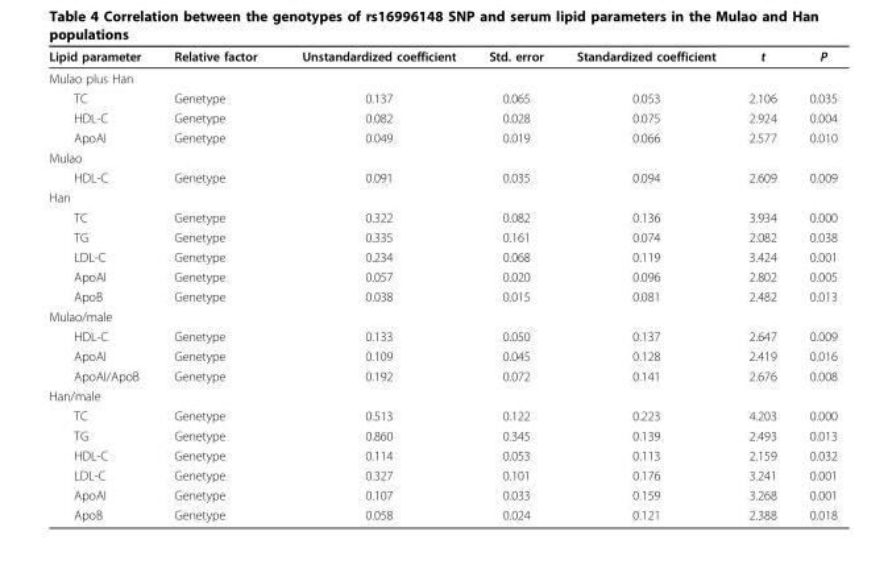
<table><thead><tr><td>Lipid parameter</td><td>Relative factor</td><td>Unstandardized coefficient</td><td>Std. error</td><td>Standardized coefficient</td><td>t</td><td>P</td></tr></thead><tbody><tr><td colspan="7">Mulao plus Han</td></tr><tr><td>TC</td><td>Genetype</td><td>0.137</td><td>0.065</td><td>0.053</td><td>2.106</td><td>0.035</td></tr><tr><td>HDL-C</td><td>Genetype</td><td>0.082</td><td>0.028</td><td>0.075</td><td>2.924</td><td>0.004</td></tr><tr><td>ApoAI</td><td>Genetype</td><td>0.049</td><td>0.019</td><td>0.066</td><td>2.577</td><td>0.010</td></tr><tr><td colspan="7">Mulao</td></tr><tr><td>HDL-C</td><td>Genetype</td><td>0.091</td><td>0.035</td><td>0.094</td><td>2.609</td><td>0.009</td></tr><tr><td colspan="7">Han</td></tr><tr><td>TC</td><td>Genetype</td><td>0.322</td><td>0.082</td><td>0.136</td><td>3.934</td><td>0.000</td></tr><tr><td>TG</td><td>Genetype</td><td>0.335</td><td>0.161</td><td>0.074</td><td>2.082</td><td>0.038</td></tr><tr><td>LDL-C</td><td>Genetype</td><td>0.234</td><td>0.068</td><td>0.119</td><td>3.424</td><td>0.001</td></tr><tr><td>ApoAI</td><td>Genetype</td><td>0.057</td><td>0.020</td><td>0.096</td><td>2.802</td><td>0.005</td></tr><tr><td>ApoB</td><td>Genetype</td><td>0.038</td><td>0.015</td><td>0.081</td><td>2.482</td><td>0.013</td></tr><tr><td colspan="7">Mulao/male</td></tr><tr><td>HDL-C</td><td>Genetype</td><td>0.133</td><td>0.050</td><td>0.137</td><td>2.647</td><td>0.009</td></tr><tr><td>ApoAI</td><td>Genetype</td><td>0.109</td><td>0.045</td><td>0.128</td><td>2.419</td><td>0.016</td></tr><tr><td>ApoAI/ApoB</td><td>Genetype</td><td>0.192</td><td>0.072</td><td>0.141</td><td>2.676</td><td>0.008</td></tr><tr><td colspan="7">Han/male</td></tr><tr><td>TC</td><td>Genetype</td><td>0.513</td><td>0.122</td><td>0.223</td><td>4.203</td><td>0.000</td></tr><tr><td>TG</td><td>Genetype</td><td>0.860</td><td>0.345</td><td>0.139</td><td>2.493</td><td>0.013</td></tr><tr><td>HDL-C</td><td>Genetype</td><td>0.114</td><td>0.053</td><td>0.113</td><td>2.159</td><td>0.032</td></tr><tr><td>LDL-C</td><td>Genetype</td><td>0.327</td><td>0.101</td><td>0.176</td><td>3.241</td><td>0.001</td></tr><tr><td>ApoAI</td><td>Genetype</td><td>0.107</td><td>0.033</td><td>0.159</td><td>3.268</td><td>0.001</td></tr><tr><td>ApoB</td><td>Genetype</td><td>0.058</td><td>0.024</td><td>0.121</td><td>2.388</td><td>0.018</td></tr></tbody></table>